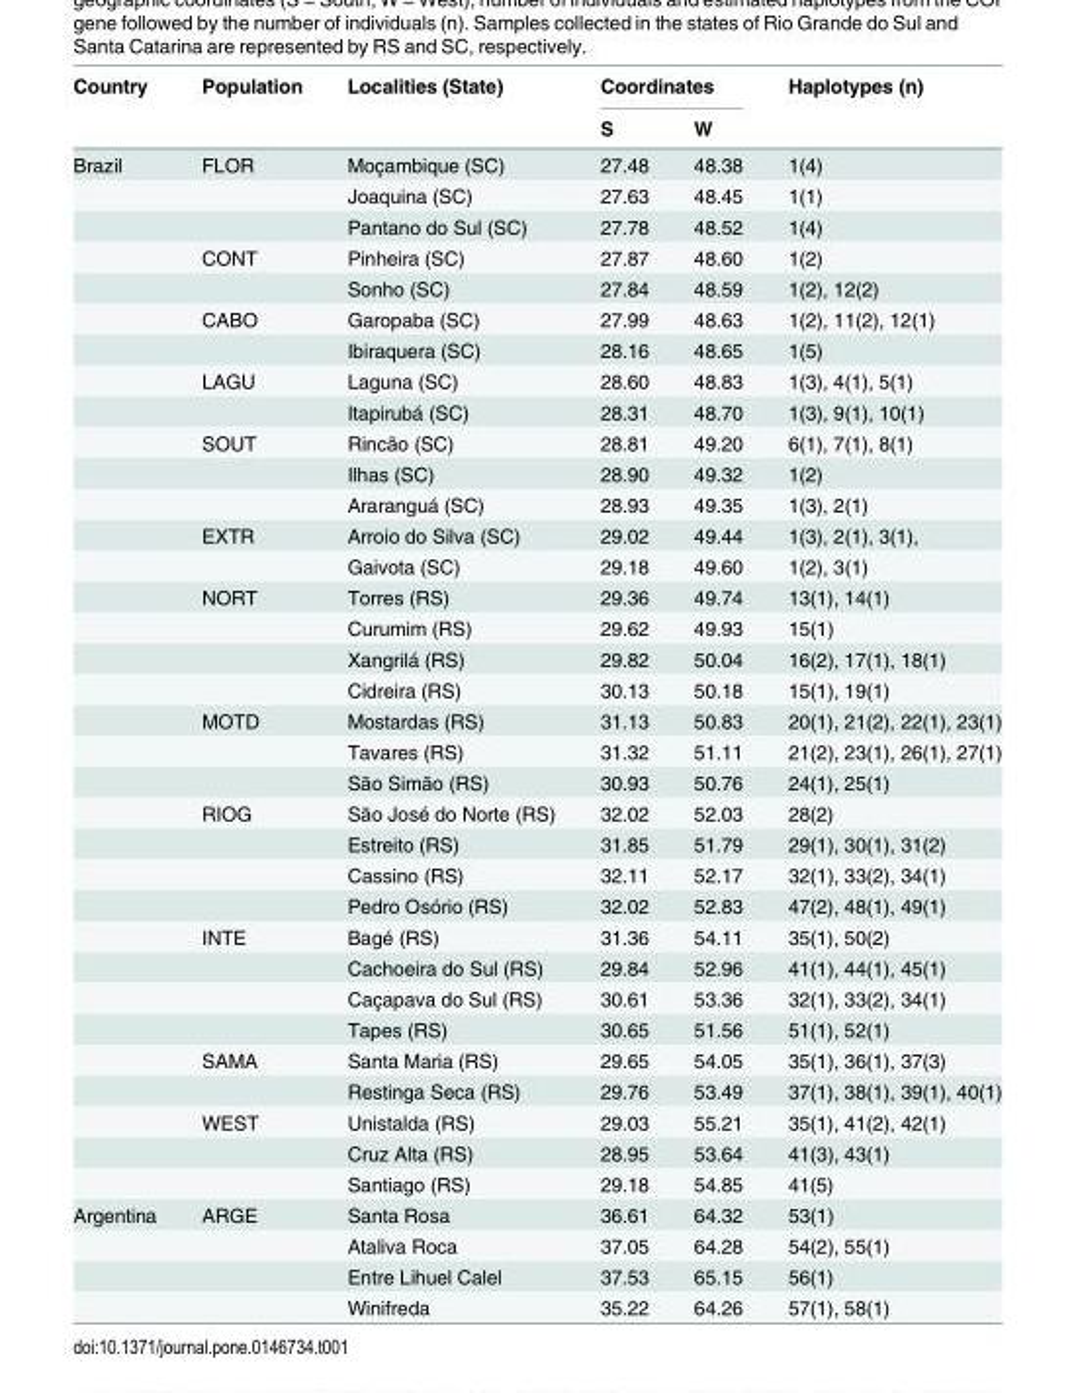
<table><thead><tr><td rowspan="2">Country</td><td rowspan="2">Population</td><td rowspan="2">Localities (State)</td><td colspan="2">Coordinates</td><td rowspan="2">Haplotypes (n)</td></tr><tr><td>S</td><td>W</td></tr></thead><tbody><tr><td rowspan="34">Brazil</td><td>FLOR</td><td>Moçambique (SC)</td><td>27.48</td><td>48.38</td><td>1(4)</td></tr><tr><td></td><td>Joaquina (SC)</td><td>27.63</td><td>48.45</td><td>1(1)</td></tr><tr><td></td><td>Pantano do Sul (SC)</td><td>27.78</td><td>48.52</td><td>1(4)</td></tr><tr><td>CONT</td><td>Pinheira (SC)</td><td>27.87</td><td>48.60</td><td>1(2)</td></tr><tr><td></td><td>Sonho (SC)</td><td>27.84</td><td>48.59</td><td>1(2), 12(2)</td></tr><tr><td>CABO</td><td>Garopaba (SC)</td><td>27.99</td><td>48.63</td><td>1(2), 11(2), 12(1)</td></tr><tr><td></td><td>Ibiraquera (SC)</td><td>28.16</td><td>48.65</td><td>1(5)</td></tr><tr><td>LAGU</td><td>Laguna (SC)</td><td>28.60</td><td>48.83</td><td>1(3), 4(1), 5(1)</td></tr><tr><td></td><td>Itapirubá (SC)</td><td>28.31</td><td>48.70</td><td>1(3), 9(1), 10(1)</td></tr><tr><td>SOUT</td><td>Rincão (SC)</td><td>28.81</td><td>49.20</td><td>6(1), 7(1), 8(1)</td></tr><tr><td></td><td>Ilhas (SC)</td><td>28.90</td><td>49.32</td><td>1(2)</td></tr><tr><td></td><td>Araranguá (SC)</td><td>28.93</td><td>49.35</td><td>1(3), 2(1)</td></tr><tr><td>EXTR</td><td>Arroio do Silva (SC)</td><td>29.02</td><td>49.44</td><td>1(3), 2(1), 3(1),</td></tr><tr><td></td><td>Gaivota (SC)</td><td>29.18</td><td>49.60</td><td>1(2), 3(1)</td></tr><tr><td>NORT</td><td>Torres (RS)</td><td>29.36</td><td>49.74</td><td>13(1), 14(1)</td></tr><tr><td></td><td>Curumim (RS)</td><td>29.62</td><td>49.93</td><td>15(1)</td></tr><tr><td></td><td>Xangrilá (RS)</td><td>29.82</td><td>50.04</td><td>16(2), 17(1), 18(1)</td></tr><tr><td></td><td>Cidreira (RS)</td><td>30.13</td><td>50.18</td><td>15(1), 19(1)</td></tr><tr><td>MOTD</td><td>Mostardas (RS)</td><td>31.13</td><td>50.83</td><td>20(1), 21(2), 22(1), 23(1)</td></tr><tr><td></td><td>Tavares (RS)</td><td>31.32</td><td>51.11</td><td>21(2), 23(1), 26(1), 27(1)</td></tr><tr><td></td><td>São Simão (RS)</td><td>30.93</td><td>50.76</td><td>24(1), 25(1)</td></tr><tr><td>RIOG</td><td>São José do Norte (RS)</td><td>32.02</td><td>52.03</td><td>28(2)</td></tr><tr><td></td><td>Estreito (RS)</td><td>31.85</td><td>51.79</td><td>29(1), 30(1), 31(2)</td></tr><tr><td></td><td>Cassino (RS)</td><td>32.11</td><td>52.17</td><td>32(1), 33(2), 34(1)</td></tr><tr><td></td><td>Pedro Osório (RS)</td><td>32.02</td><td>52.83</td><td>47(2), 48(1), 49(1)</td></tr><tr><td>INTE</td><td>Bagé (RS)</td><td>31.36</td><td>54.11</td><td>35(1), 50(2)</td></tr><tr><td></td><td>Cachoeira do Sul (RS)</td><td>29.84</td><td>52.96</td><td>41(1), 44(1), 45(1)</td></tr><tr><td></td><td>Caçapava do Sul (RS)</td><td>30.61</td><td>53.36</td><td>32(1), 33(2), 34(1)</td></tr><tr><td></td><td>Tapes (RS)</td><td>30.65</td><td>51.56</td><td>51(1), 52(1)</td></tr><tr><td>SAMA</td><td>Santa Maria (RS)</td><td>29.65</td><td>54.05</td><td>35(1), 36(1), 37(3)</td></tr><tr><td></td><td>Restinga Seca (RS)</td><td>29.76</td><td>53.49</td><td>37(1), 38(1), 39(1), 40(1)</td></tr><tr><td>WEST</td><td>Unistalda (RS)</td><td>29.03</td><td>55.21</td><td>35(1), 41(2), 42(1)</td></tr><tr><td></td><td>Cruz Alta (RS)</td><td>28.95</td><td>53.64</td><td>41(3), 43(1)</td></tr><tr><td></td><td>Santiago (RS)</td><td>29.18</td><td>54.85</td><td>41(5)</td></tr><tr><td rowspan="4">Argentina</td><td>ARGE</td><td>Santa Rosa</td><td>36.61</td><td>64.32</td><td>53(1)</td></tr><tr><td></td><td>Ataliva Roca</td><td>37.05</td><td>64.28</td><td>54(2), 55(1)</td></tr><tr><td></td><td>Entre Lihuel Calel</td><td>37.53</td><td>65.15</td><td>56(1)</td></tr><tr><td></td><td>Winifreda</td><td>35.22</td><td>64.26</td><td>57(1), 58(1)</td></tr></tbody></table>